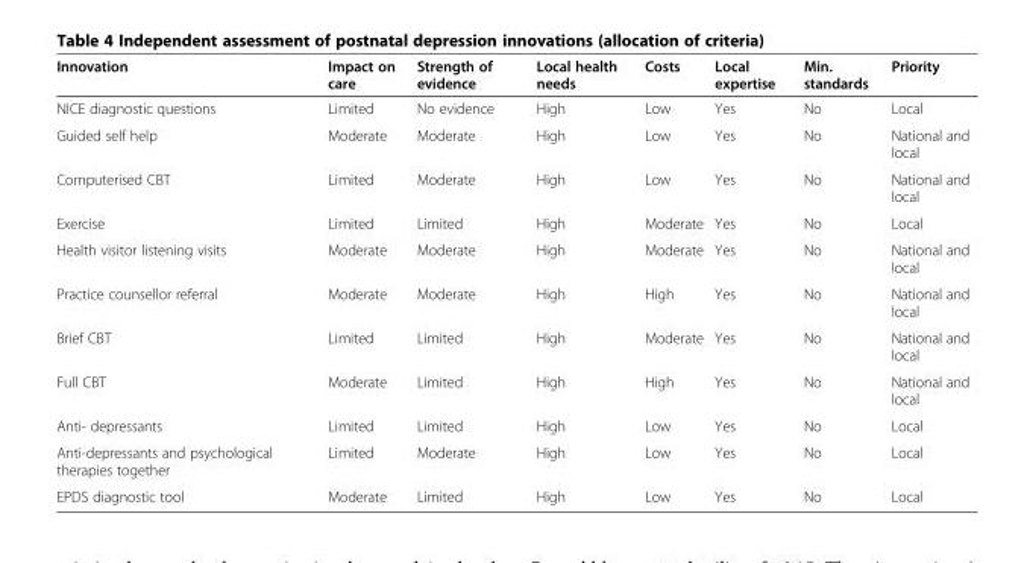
<table><thead><tr><td>Innovation</td><td>Impact on care</td><td>Strength of evidence</td><td>Local health needs</td><td>Costs</td><td>Local expertise</td><td>Min. standards</td><td>Priority</td></tr></thead><tbody><tr><td>NICE diagnostic questions</td><td>Limited</td><td>No evidence</td><td>High</td><td>Low</td><td>Yes</td><td>No</td><td>Local</td></tr><tr><td>Guided self help</td><td>Moderate</td><td>Moderate</td><td>High</td><td>Low</td><td>Yes</td><td>No</td><td>National and local</td></tr><tr><td>Computerised CBT</td><td>Limited</td><td>Moderate</td><td>High</td><td>Low</td><td>Yes</td><td>No</td><td>National and local</td></tr><tr><td>Exercise</td><td>Limited</td><td>Limited</td><td>High</td><td>Moderate</td><td>Yes</td><td>No</td><td>Local</td></tr><tr><td>Health visitor listening visits</td><td>Moderate</td><td>Moderate</td><td>High</td><td>Moderate</td><td>Yes</td><td>No</td><td>National and local</td></tr><tr><td>Practice counsellor referral</td><td>Moderate</td><td>Moderate</td><td>High</td><td>High</td><td>Yes</td><td>No</td><td>National and local</td></tr><tr><td>Brief CBT</td><td>Limited</td><td>Limited</td><td>High</td><td>Moderate</td><td>Yes</td><td>No</td><td>National and local</td></tr><tr><td>Full CBT</td><td>Moderate</td><td>Limited</td><td>High</td><td>High</td><td>Yes</td><td>No</td><td>National and local</td></tr><tr><td>Anti- depressants</td><td>Limited</td><td>Limited</td><td>High</td><td>Low</td><td>Yes</td><td>No</td><td>Local</td></tr><tr><td>Anti-depressants and psychological therapies together</td><td>Limited</td><td>Moderate</td><td>High</td><td>Low</td><td>Yes</td><td>No</td><td>Local</td></tr><tr><td>EPDS diagnostic tool</td><td>Moderate</td><td>Limited</td><td>High</td><td>Low</td><td>Yes</td><td>No</td><td>Local</td></tr></tbody></table>